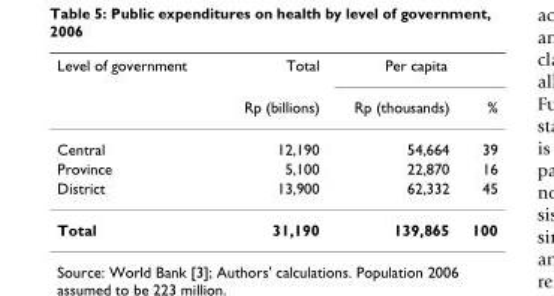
<table><thead><tr><td rowspan="2">Level of government</td><td rowspan="2">Total Rp (billions)</td><td colspan="2">Per capita</td></tr><tr><td>Rp (thousands)</td><td>%</td></tr></thead><tbody><tr><td>Central</td><td>12,190</td><td>54,664</td><td>39</td></tr><tr><td>Province</td><td>5,100</td><td>22,870</td><td>16</td></tr><tr><td>District</td><td>13,900</td><td>62,332</td><td>45</td></tr><tr><td>Total</td><td>31,190</td><td>139,865</td><td>100</td></tr></tbody></table>